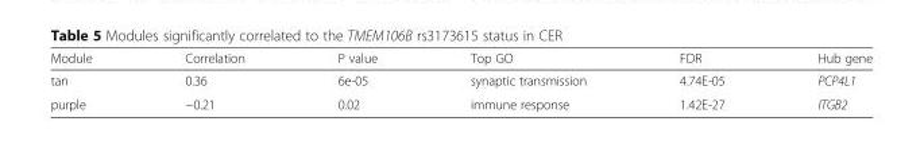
<table><thead><tr><td>Module</td><td>Correlation</td><td>P value</td><td>Top GO</td><td>FDR</td><td>Hub gene</td></tr></thead><tbody><tr><td>tan</td><td>0.36</td><td>6e-05</td><td>synaptic transmission</td><td>4.74E-05</td><td>PCP4L1</td></tr><tr><td>purple</td><td>−0.21</td><td>0.02</td><td>immune response</td><td>1.42E-27</td><td>ITGB2</td></tr></tbody></table>